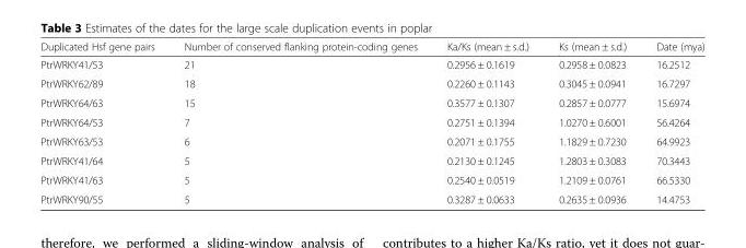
<table><thead><tr><td>Duplicated Hsf gene pairs</td><td>Number of conserved flanking protein-coding genes</td><td>Ka/Ks (mean ± s.d.)</td><td>Ks (mean ± s.d.)</td><td>Date (mya)</td></tr></thead><tbody><tr><td>PtrWRKY41/53</td><td>21</td><td>0.2956 ± 0.1619</td><td>0.2958 ± 0.0823</td><td>16.2512</td></tr><tr><td>PtrWRKY62/89</td><td>18</td><td>0.2260 ± 0.1143</td><td>0.3045 ± 0.0941</td><td>16.7297</td></tr><tr><td>PtrWRKY64/63</td><td>15</td><td>0.3577 ± 0.1307</td><td>0.2857 ± 0.0777</td><td>15.6974</td></tr><tr><td>PtrWRKY64/53</td><td>7</td><td>0.2751 ± 0.1394</td><td>1.0270 ± 0.6001</td><td>56.4264</td></tr><tr><td>PtrWRKY63/53</td><td>6</td><td>0.2071 ± 0.1755</td><td>1.1829 ± 0.7230</td><td>64.9923</td></tr><tr><td>PtrWRKY41/64</td><td>5</td><td>0.2130 ± 0.1245</td><td>1.2803 ± 0.3083</td><td>70.3443</td></tr><tr><td>PtrWRKY41/63</td><td>5</td><td>0.2540 ± 0.0519</td><td>1.2109 ± 0.0761</td><td>66.5330</td></tr><tr><td>PtrWRKY90/55</td><td>5</td><td>0.3287 ± 0.0633</td><td>0.2635 ± 0.0936</td><td>14.4753</td></tr></tbody></table>